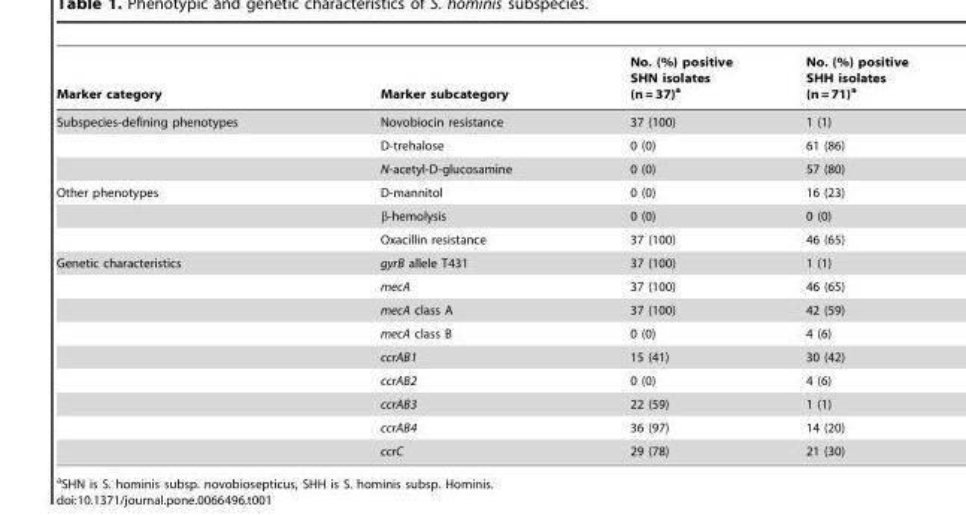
<table><thead><tr><td>Marker category</td><td>Marker subcategory</td><td>No. (%) positive SHN isolates (n = 37)<sup>a</sup></td><td>No. (%) positive SHH isolates (n = 71)<sup>a</sup></td></tr></thead><tbody><tr><td rowspan="3">Subspecies-defining phenotypes</td><td>Novobiocin resistance</td><td>37 (100)</td><td>1 (1)</td></tr><tr><td>D-trehalose</td><td>0 (0)</td><td>61 (86)</td></tr><tr><td>N-acetyl-D-glucosamine</td><td>0 (0)</td><td>57 (80)</td></tr><tr><td rowspan="3">Other phenotypes</td><td>D-mannitol</td><td>0 (0)</td><td>16 (23)</td></tr><tr><td>β-hemolysis</td><td>0 (0)</td><td>0 (0)</td></tr><tr><td>Oxacillin resistance</td><td>37 (100)</td><td>46 (65)</td></tr><tr><td rowspan="9">Genetic characteristics</td><td>gyrB allele T431</td><td>37 (100)</td><td>1 (1)</td></tr><tr><td>mecA</td><td>37 (100)</td><td>46 (65)</td></tr><tr><td>mecA class A</td><td>37 (100)</td><td>42 (59)</td></tr><tr><td>mecA class B</td><td>0 (0)</td><td>4 (6)</td></tr><tr><td>ccrAB1</td><td>15 (41)</td><td>30 (42)</td></tr><tr><td>ccrAB2</td><td>0 (0)</td><td>4 (6)</td></tr><tr><td>ccrAB3</td><td>22 (59)</td><td>1 (1)</td></tr><tr><td>ccrAB4</td><td>36 (97)</td><td>14 (20)</td></tr><tr><td>ccrC</td><td>29 (78)</td><td>21 (30)</td></tr></tbody></table>